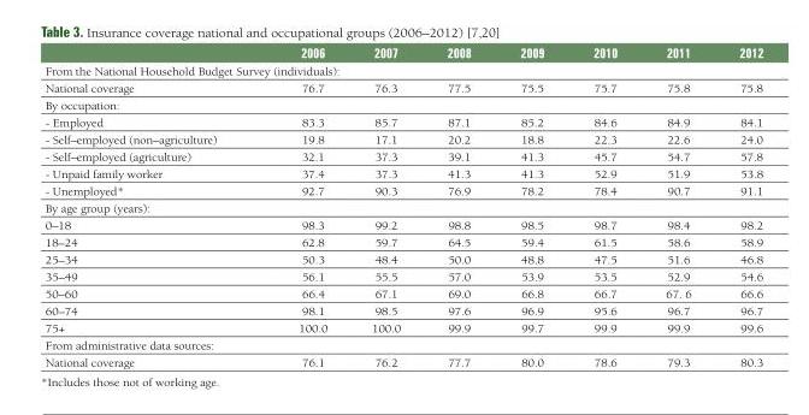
<table><thead><tr><td></td><td>2006</td><td>2007</td><td>2008</td><td>2009</td><td>2010</td><td>2011</td><td>2012</td></tr></thead><tbody><tr><td colspan="8">From the National Household Budget Survey (individuals):</td></tr><tr><td>National coverage</td><td>76.7</td><td>76.3</td><td>77.5</td><td>75.5</td><td>75.7</td><td>75.8</td><td>75.8</td></tr><tr><td colspan="8">By occupation:</td></tr><tr><td>- Employed</td><td>83.3</td><td>85.7</td><td>87.1</td><td>85.2</td><td>84.6</td><td>84.9</td><td>84.1</td></tr><tr><td>- Self–employed (non–agriculture)</td><td>19.8</td><td>17.1</td><td>20.2</td><td>18.8</td><td>22.3</td><td>22.6</td><td>24.0</td></tr><tr><td>- Self–employed (agriculture)</td><td>32.1</td><td>37.3</td><td>39.1</td><td>41.3</td><td>45.7</td><td>54.7</td><td>57.8</td></tr><tr><td>- Unpaid family worker</td><td>37.4</td><td>37.3</td><td>41.3</td><td>41.3</td><td>52.9</td><td>51.9</td><td>53.8</td></tr><tr><td>- Unemployed*</td><td>92.7</td><td>90.3</td><td>76.9</td><td>78.2</td><td>78.4</td><td>90.7</td><td>91.1</td></tr><tr><td colspan="8">By age group (years):</td></tr><tr><td>0–18</td><td>98.3</td><td>99.2</td><td>98.8</td><td>98.5</td><td>98.7</td><td>98.4</td><td>98.2</td></tr><tr><td>18–24</td><td>62.8</td><td>59.7</td><td>64.5</td><td>59.4</td><td>61.5</td><td>58.6</td><td>58.9</td></tr><tr><td>25–34</td><td>50.3</td><td>48.4</td><td>50.0</td><td>48.8</td><td>47.5</td><td>51.6</td><td>46.8</td></tr><tr><td>35–49</td><td>56.1</td><td>55.5</td><td>57.0</td><td>53.9</td><td>53.5</td><td>52.9</td><td>54.6</td></tr><tr><td>50–60</td><td>66.4</td><td>67.1</td><td>69.0</td><td>66.8</td><td>66.7</td><td>67. 6</td><td>66.6</td></tr><tr><td>60–74</td><td>98.1</td><td>98.5</td><td>97.6</td><td>96.9</td><td>95.6</td><td>96.7</td><td>96.7</td></tr><tr><td>75+</td><td>100.0</td><td>100.0</td><td>99.9</td><td>99.7</td><td>99.9</td><td>99.9</td><td>99.6</td></tr><tr><td colspan="8">From administrative data sources:</td></tr><tr><td>National coverage</td><td>76.1</td><td>76.2</td><td>77.7</td><td>80.0</td><td>78.6</td><td>79.3</td><td>80.3</td></tr></tbody></table>